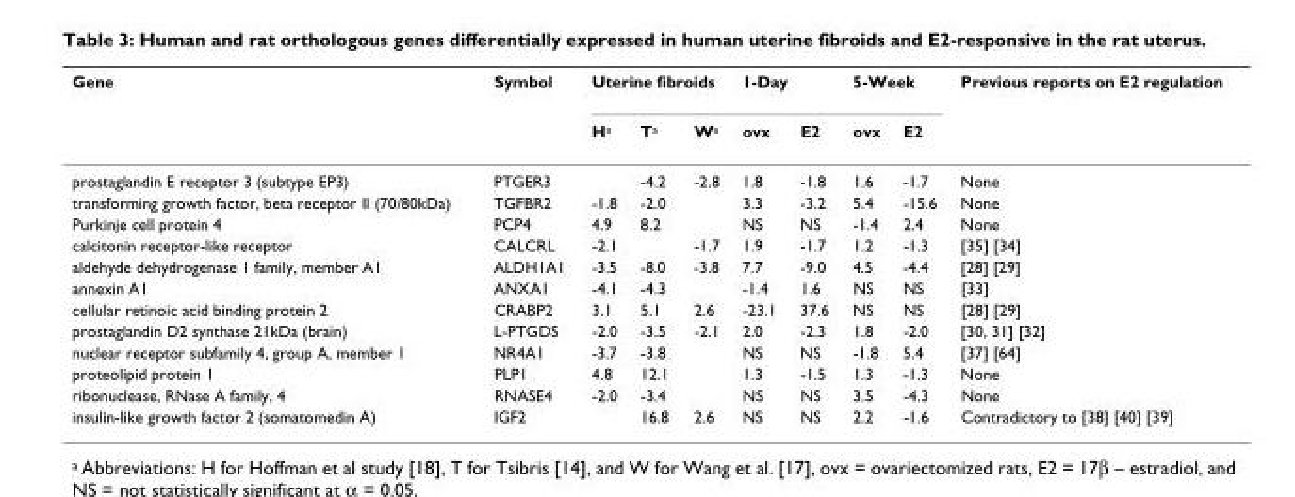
<table><thead><tr><td rowspan="2">Gene</td><td rowspan="2">Symbol</td><td colspan="3">Uterine fibroids</td><td colspan="2">1-Day</td><td colspan="2">5-Week</td><td rowspan="2">Previous reports on E2 regulation</td></tr><tr><td>H<sup>a</sup></td><td>T<sup>a</sup></td><td>W<sup>a</sup></td><td>ovx</td><td>E2</td><td>ovx</td><td>E2</td></tr></thead><tbody><tr><td>prostaglandin E receptor 3 (subtype EP3)</td><td>PTGER3</td><td></td><td>-4.2</td><td>-2.8</td><td>1.8</td><td>-1.8</td><td>1.6</td><td>-1.7</td><td>None</td></tr><tr><td>transforming growth factor, beta receptor II (70/80kDa)</td><td>TGFBR2</td><td>-1.8</td><td>-2.0</td><td></td><td>3.3</td><td>-3.2</td><td>5.4</td><td>-15.6</td><td>None</td></tr><tr><td>Purkinje cell protein 4</td><td>PCP4</td><td>4.9</td><td>8.2</td><td></td><td>NS</td><td>NS</td><td>-1.4</td><td>2.4</td><td>None</td></tr><tr><td>calcitonin receptor-like receptor</td><td>CALCRL</td><td>-2.1</td><td></td><td>-1.7</td><td>1.9</td><td>-1.7</td><td>1.2</td><td>-1.3</td><td>[35] [34]</td></tr><tr><td>aldehyde dehydrogenase 1 family, member A1</td><td>ALDH1A1</td><td>-3.5</td><td>-8.0</td><td>-3.8</td><td>7.7</td><td>-9.0</td><td>4.5</td><td>-4.4</td><td>[28] [29]</td></tr><tr><td>annexin A1</td><td>ANXA1</td><td>-4.1</td><td>-4.3</td><td></td><td>-1.4</td><td>1.6</td><td>NS</td><td>NS</td><td>[33]</td></tr><tr><td>cellular retinoic acid binding protein 2</td><td>CRABP2</td><td>3.1</td><td>5.1</td><td>2.6</td><td>-23.1</td><td>37.6</td><td>NS</td><td>NS</td><td>[28] [29]</td></tr><tr><td>prostaglandin D2 synthase 21kDa (brain)</td><td>L-PTGDS</td><td>-2.0</td><td>-3.5</td><td>-2.1</td><td>2.0</td><td>-2.3</td><td>1.8</td><td>-2.0</td><td>[30, 31] [32]</td></tr><tr><td>nuclear receptor subfamily 4, group A, member 1</td><td>NR4A1</td><td>-3.7</td><td>-3.8</td><td></td><td>NS</td><td>NS</td><td>-1.8</td><td>5.4</td><td>[37] [64]</td></tr><tr><td>proteolipid protein 1</td><td>PLP1</td><td>4.8</td><td>12.1</td><td></td><td>1.3</td><td>-1.5</td><td>1.3</td><td>-1.3</td><td>None</td></tr><tr><td>ribonuclease, RNase A family, 4</td><td>RNASE4</td><td>-2.0</td><td>-3.4</td><td></td><td>NS</td><td>NS</td><td>3.5</td><td>-4.3</td><td>None</td></tr><tr><td>insulin-like growth factor 2 (somatomedin A)</td><td>IGF2</td><td></td><td>16.8</td><td>2.6</td><td>NS</td><td>NS</td><td>2.2</td><td>-1.6</td><td>Contradictory to [38] [40] [39]</td></tr></tbody></table>